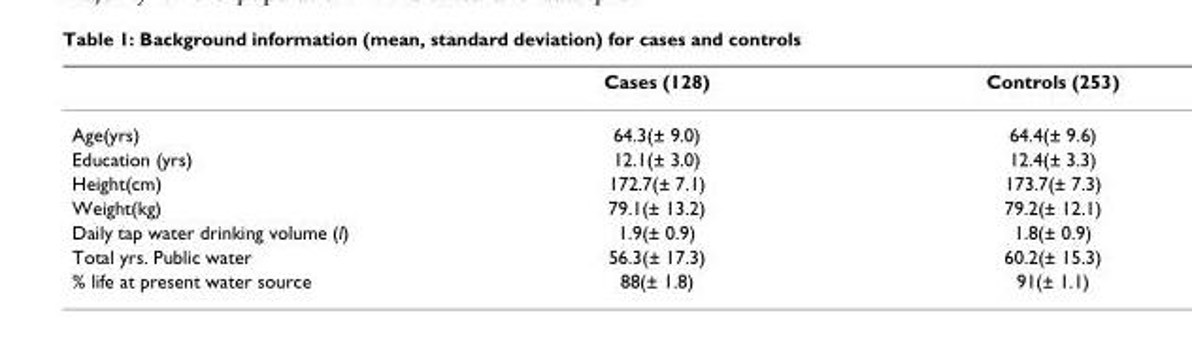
<table><thead><tr><td></td><td>Cases (128)</td><td>Controls (253)</td></tr></thead><tbody><tr><td>Age(yrs)</td><td>64.3(± 9.0)</td><td>64.4(± 9.6)</td></tr><tr><td>Education (yrs)</td><td>12.1(± 3.0)</td><td>12.4(± 3.3)</td></tr><tr><td>Height(cm)</td><td>172.7(± 7.1)</td><td>173.7(± 7.3)</td></tr><tr><td>Weight(kg)</td><td>79.1(± 13.2)</td><td>79.2(± 12.1)</td></tr><tr><td>Daily tap water drinking volume (l)</td><td>1.9(± 0.9)</td><td>1.8(± 0.9)</td></tr><tr><td>Total yrs. Public water</td><td>56.3(± 17.3)</td><td>60.2(± 15.3)</td></tr><tr><td>% life at present water source</td><td>88(± 1.8)</td><td>91(± 1.1)</td></tr></tbody></table>